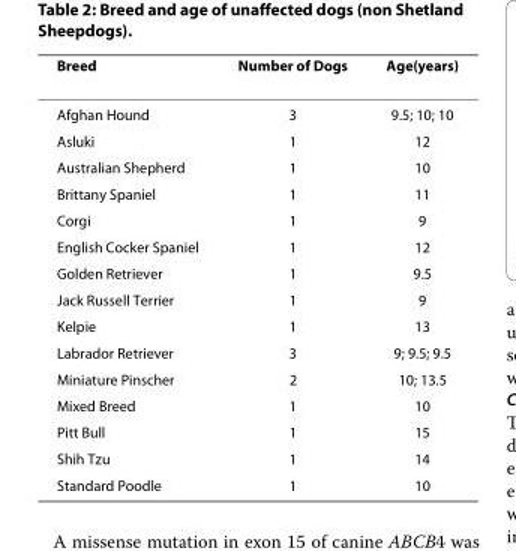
<table><thead><tr><td>Breed</td><td>Number of Dogs</td><td>Age(years)</td></tr></thead><tbody><tr><td>Afghan Hound</td><td>3</td><td>9.5; 10; 10</td></tr><tr><td>Asluki</td><td>1</td><td>12</td></tr><tr><td>Australian Shepherd</td><td>1</td><td>10</td></tr><tr><td>Brittany Spaniel</td><td>1</td><td>11</td></tr><tr><td>Corgi</td><td>1</td><td>9</td></tr><tr><td>English Cocker Spaniel</td><td>1</td><td>12</td></tr><tr><td>Golden Retriever</td><td>1</td><td>9.5</td></tr><tr><td>Jack Russell Terrier</td><td>1</td><td>9</td></tr><tr><td>Kelpie</td><td>1</td><td>13</td></tr><tr><td>Labrador Retriever</td><td>3</td><td>9; 9.5; 9.5</td></tr><tr><td>Miniature Pinscher</td><td>2</td><td>10; 13.5</td></tr><tr><td>Mixed Breed</td><td>1</td><td>10</td></tr><tr><td>Pitt Bull</td><td>1</td><td>15</td></tr><tr><td>Shih Tzu</td><td>1</td><td>14</td></tr><tr><td>Standard Poodle</td><td>1</td><td>10</td></tr></tbody></table>